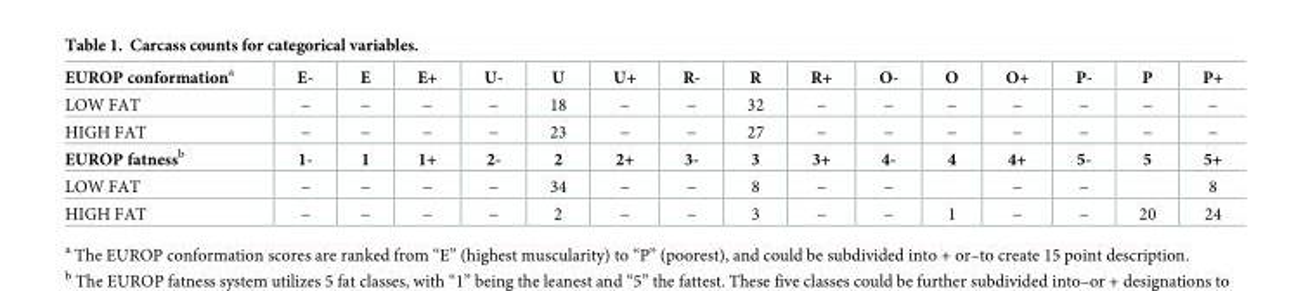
<table><tbody><tr><td>EUROP conformation<sup>a</sup></td><td>E-</td><td>E</td><td>E+</td><td>U-</td><td>U</td><td>U+</td><td>R-</td><td>R</td><td>R+</td><td>O-</td><td>O</td><td>O+</td><td>P-</td><td>P</td><td>P+</td></tr><tr><td>LOW FAT</td><td>−</td><td>−</td><td>−</td><td>−</td><td>18</td><td>−</td><td>−</td><td>32</td><td>−</td><td>−</td><td>−</td><td>−</td><td>−</td><td>−</td><td>−</td></tr><tr><td>HIGH FAT</td><td>−</td><td>−</td><td>−</td><td>−</td><td>23</td><td>−</td><td>−</td><td>27</td><td>−</td><td>−</td><td>−</td><td>−</td><td>−</td><td>−</td><td>−</td></tr><tr><td>EUROP fatness<sup>b</sup></td><td>1-</td><td>1</td><td>1+</td><td>2-</td><td>2</td><td>2+</td><td>3-</td><td>3</td><td>3+</td><td>4-</td><td>4</td><td>4+</td><td>5-</td><td>5</td><td>5+</td></tr><tr><td>LOW FAT</td><td>−</td><td>−</td><td>−</td><td>−</td><td>34</td><td>−</td><td>−</td><td>8</td><td>−</td><td>−</td><td></td><td>−</td><td>−</td><td></td><td>8</td></tr><tr><td>HIGH FAT</td><td>−</td><td>−</td><td>−</td><td>−</td><td>2</td><td>−</td><td>−</td><td>3</td><td>−</td><td>−</td><td>1</td><td>−</td><td>−</td><td>20</td><td>24</td></tr></tbody></table>